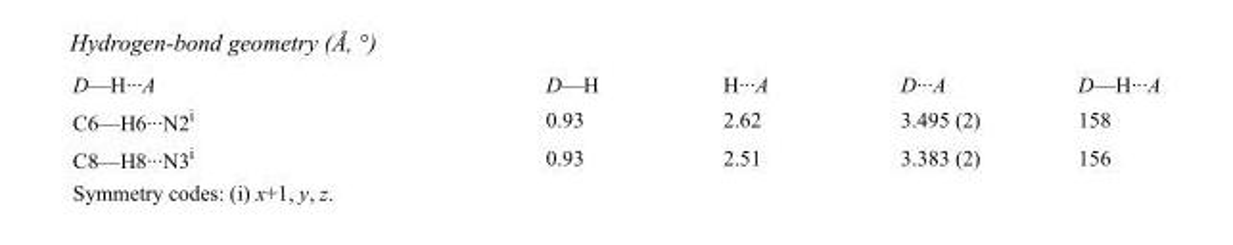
<table><tbody><tr><td>D—H···A</td><td>D—H</td><td>H···A</td><td>D···A</td><td>D—H···A</td></tr><tr><td>C6—H6···N2<sup>i</sup></td><td>0.93</td><td>2.62</td><td>3.495 (2)</td><td>158</td></tr><tr><td>C8—H8···N3<sup>i</sup></td><td>0.93</td><td>2.51</td><td>3.383 (2)</td><td>156</td></tr></tbody></table>